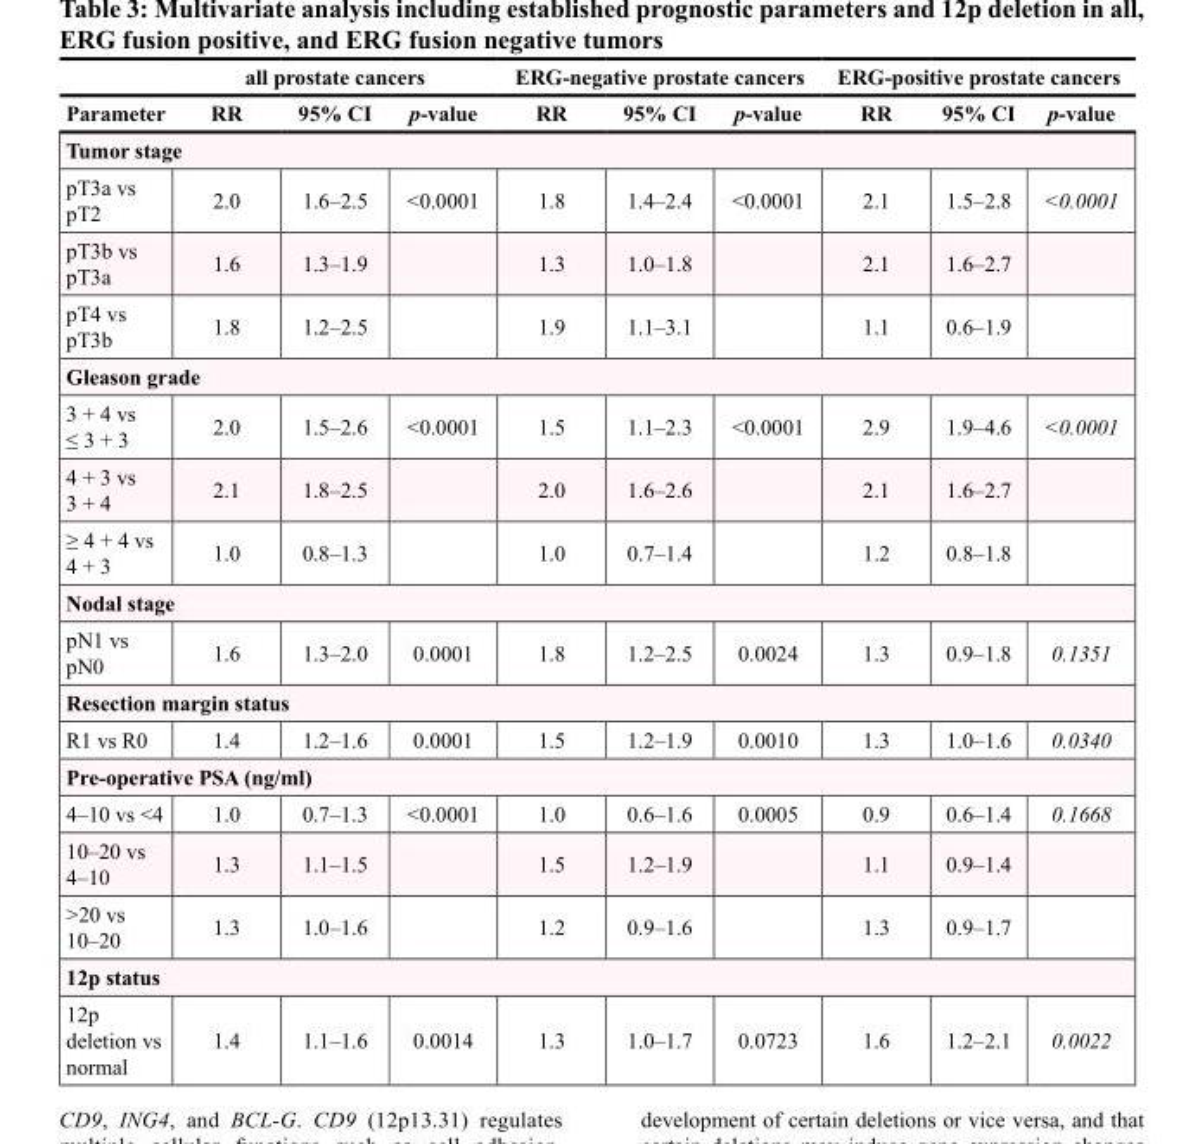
<table><thead><tr><td rowspan="2">Parameter</td><td colspan="3">all prostate cancers</td><td colspan="3">ERG-negative prostate cancers</td><td colspan="3">ERG-positive prostate cancers</td></tr><tr><td>RR</td><td>95% CI</td><td>p-value</td><td>RR</td><td>95% CI</td><td>p-value</td><td>RR</td><td>95% CI</td><td>p-value</td></tr></thead><tbody><tr><td colspan="10">Tumor stage</td></tr><tr><td>pT3a vs pT2</td><td>2.0</td><td>1.6–2.5</td><td>&lt;0.0001</td><td>1.8</td><td>1.4–2.4</td><td>&lt;0.0001</td><td>2.1</td><td>1.5–2.8</td><td>&lt;0.0001</td></tr><tr><td>pT3b vs pT3a</td><td>1.6</td><td>1.3–1.9</td><td></td><td>1.3</td><td>1.0–1.8</td><td></td><td>2.1</td><td>1.6–2.7</td><td></td></tr><tr><td>pT4 vs pT3b</td><td>1.8</td><td>1.2–2.5</td><td></td><td>1.9</td><td>1.1–3.1</td><td></td><td>1.1</td><td>0.6–1.9</td><td></td></tr><tr><td colspan="10">Gleason grade</td></tr><tr><td>3 + 4 vs ≤ 3 + 3</td><td>2.0</td><td>1.5–2.6</td><td>&lt;0.0001</td><td>1.5</td><td>1.1–2.3</td><td>&lt;0.0001</td><td>2.9</td><td>1.9–4.6</td><td>&lt;0.0001</td></tr><tr><td>4 + 3 vs 3 + 4</td><td>2.1</td><td>1.8–2.5</td><td></td><td>2.0</td><td>1.6–2.6</td><td></td><td>2.1</td><td>1.6–2.7</td><td></td></tr><tr><td>≥ 4 + 4 vs 4 + 3</td><td>1.0</td><td>0.8–1.3</td><td></td><td>1.0</td><td>0.7–1.4</td><td></td><td>1.2</td><td>0.8–1.8</td><td></td></tr><tr><td colspan="10">Nodal stage</td></tr><tr><td>pN1 vs pN0</td><td>1.6</td><td>1.3–2.0</td><td>0.0001</td><td>1.8</td><td>1.2–2.5</td><td>0.0024</td><td>1.3</td><td>0.9–1.8</td><td>0.1351</td></tr><tr><td colspan="10">Resection margin status</td></tr><tr><td>R1 vs R0</td><td>1.4</td><td>1.2–1.6</td><td>0.0001</td><td>1.5</td><td>1.2–1.9</td><td>0.0010</td><td>1.3</td><td>1.0–1.6</td><td>0.0340</td></tr><tr><td colspan="10">Pre-operative PSA (ng/ml)</td></tr><tr><td>4–10 vs &lt;4</td><td>1.0</td><td>0.7–1.3</td><td>&lt;0.0001</td><td>1.0</td><td>0.6–1.6</td><td>0.0005</td><td>0.9</td><td>0.6–1.4</td><td>0.1668</td></tr><tr><td>10–20 vs 4–10</td><td>1.3</td><td>1.1–1.5</td><td></td><td>1.5</td><td>1.2–1.9</td><td></td><td>1.1</td><td>0.9–1.4</td><td></td></tr><tr><td>&gt;20 vs 10–20</td><td>1.3</td><td>1.0–1.6</td><td></td><td>1.2</td><td>0.9–1.6</td><td></td><td>1.3</td><td>0.9–1.7</td><td></td></tr><tr><td colspan="10">12p status</td></tr><tr><td>12p deletion vs normal</td><td>1.4</td><td>1.1–1.6</td><td>0.0014</td><td>1.3</td><td>1.0–1.7</td><td>0.0723</td><td>1.6</td><td>1.2–2.1</td><td>0.0022</td></tr></tbody></table>